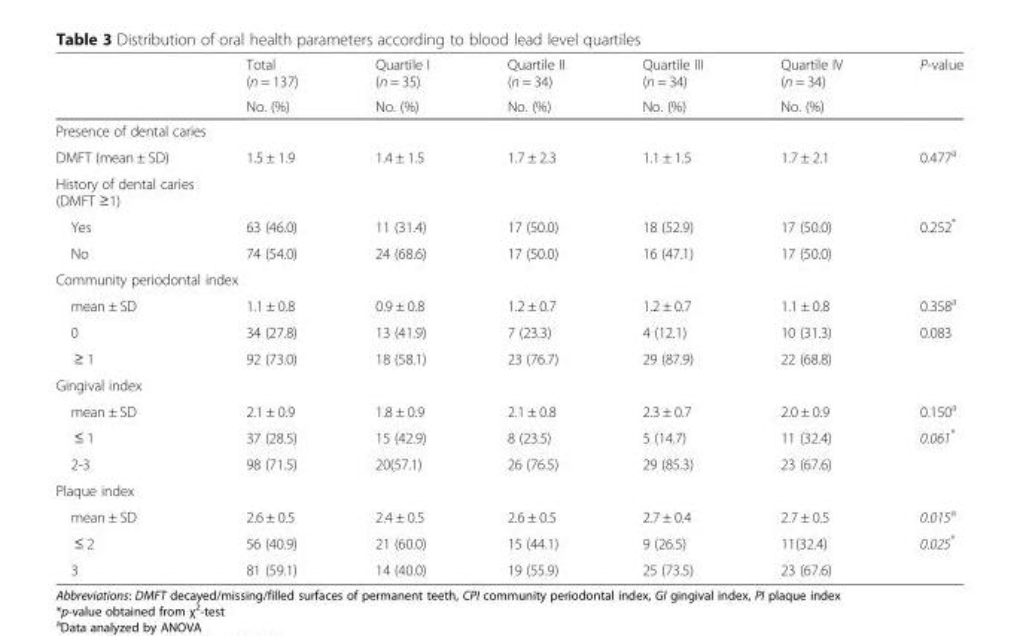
<table><thead><tr><td rowspan="2"></td><td rowspan="2">Total (n = 137) No. (%)</td><td rowspan="2">Quartile I (n = 35) No. (%)</td><td rowspan="2">Quartile II (n = 34) No. (%)</td><td rowspan="2">Quartile III (n = 34) No. (%)</td><td rowspan="2">Quartile IV (n = 34) No. (%)</td><td rowspan="2">P-value</td></tr><tr></tr></thead><tbody><tr><td colspan="7">Presence of dental caries</td></tr><tr><td>DMFT (mean ± SD)</td><td>1.5 ± 1.9</td><td>1.4 ± 1.5</td><td>1.7 ± 2.3</td><td>1.1 ± 1.5</td><td>1.7 ± 2.1</td><td>0.477<sup>a</sup></td></tr><tr><td colspan="7">History of dental caries (DMFT ≥1)</td></tr><tr><td>Yes</td><td>63 (46.0)</td><td>11 (31.4)</td><td>17 (50.0)</td><td>18 (52.9)</td><td>17 (50.0)</td><td>0.252*</td></tr><tr><td>No</td><td>74 (54.0)</td><td>24 (68.6)</td><td>17 (50.0)</td><td>16 (47.1)</td><td>17 (50.0)</td><td></td></tr><tr><td colspan="7">Community periodontal index</td></tr><tr><td>mean ± SD</td><td>1.1 ± 0.8</td><td>0.9 ± 0.8</td><td>1.2 ± 0.7</td><td>1.2 ± 0.7</td><td>1.1 ± 0.8</td><td>0.358<sup>a</sup></td></tr><tr><td>0</td><td>34 (27.8)</td><td>13 (41.9)</td><td>7 (23.3)</td><td>4 (12.1)</td><td>10 (31.3)</td><td>0.083</td></tr><tr><td>≥ 1</td><td>92 (73.0)</td><td>18 (58.1)</td><td>23 (76.7)</td><td>29 (87.9)</td><td>22 (68.8)</td><td></td></tr><tr><td colspan="7">Gingival index</td></tr><tr><td>mean ± SD</td><td>2.1 ± 0.9</td><td>1.8 ± 0.9</td><td>2.1 ± 0.8</td><td>2.3 ± 0.7</td><td>2.0 ± 0.9</td><td>0.150<sup>a</sup></td></tr><tr><td>≤ 1</td><td>37 (28.5)</td><td>15 (42.9)</td><td>8 (23.5)</td><td>5 (14.7)</td><td>11 (32.4)</td><td>0.061*</td></tr><tr><td>2-3</td><td>98 (71.5)</td><td>20(57.1)</td><td>26 (76.5)</td><td>29 (85.3)</td><td>23 (67.6)</td><td></td></tr><tr><td colspan="7">Plaque index</td></tr><tr><td>mean ± SD</td><td>2.6 ± 0.5</td><td>2.4 ± 0.5</td><td>2.6 ± 0.5</td><td>2.7 ± 0.4</td><td>2.7 ± 0.5</td><td>0.015<sup>a</sup></td></tr><tr><td>≤ 2</td><td>56 (40.9)</td><td>21 (60.0)</td><td>15 (44.1)</td><td>9 (26.5)</td><td>11(32.4)</td><td>0.025*</td></tr><tr><td>3</td><td>81 (59.1)</td><td>14 (40.0)</td><td>19 (55.9)</td><td>25 (73.5)</td><td>23 (67.6)</td><td></td></tr></tbody></table>